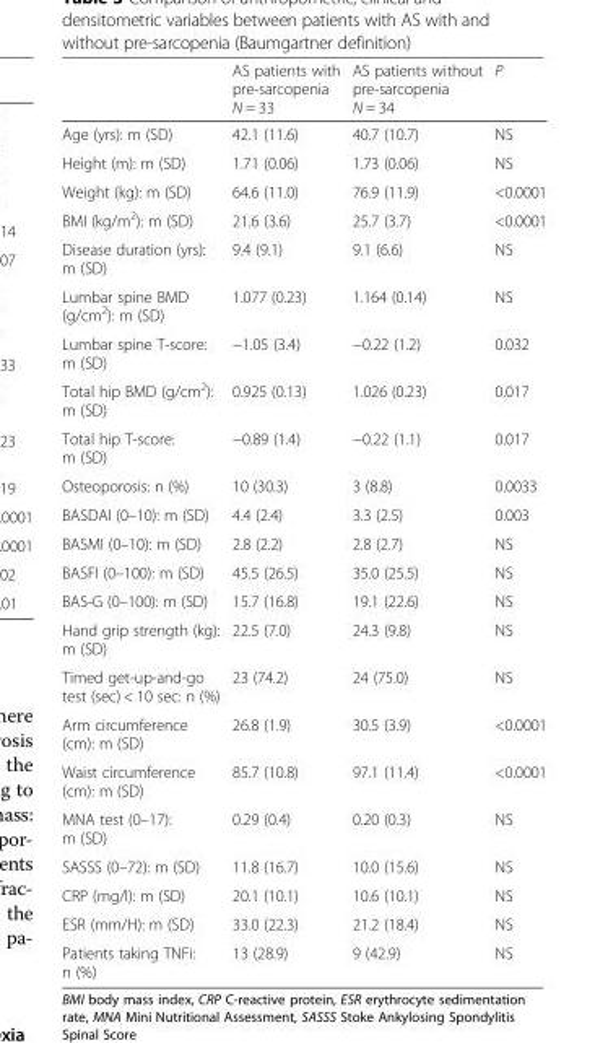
<table><thead><tr><td></td><td>AS patients with pre-sarcopenia N = 33</td><td>AS patients without pre-sarcopenia N = 34</td><td>P</td></tr></thead><tbody><tr><td>Age (yrs): m (SD)</td><td>42.1 (11.6)</td><td>40.7 (10.7)</td><td>NS</td></tr><tr><td>Height (m): m (SD)</td><td>1.71 (0.06)</td><td>1.73 (0.06)</td><td>NS</td></tr><tr><td>Weight (kg): m (SD)</td><td>64.6 (11.0)</td><td>76.9 (11.9)</td><td>&lt;0.0001</td></tr><tr><td>BMI (kg/m<sup>2</sup>): m (SD)</td><td>21.6 (3.6)</td><td>25.7 (3.7)</td><td>&lt;0.0001</td></tr><tr><td>Disease duration (yrs): m (SD)</td><td>9.4 (9.1)</td><td>9.1 (6.6)</td><td>NS</td></tr><tr><td>Lumbar spine BMD (g/cm<sup>2</sup>): m (SD)</td><td>1.077 (0.23)</td><td>1.164 (0.14)</td><td>NS</td></tr><tr><td>Lumbar spine T-score: m (SD)</td><td>−1.05 (3.4)</td><td>−0.22 (1.2)</td><td>0.032</td></tr><tr><td>Total hip BMD (g/cm<sup>2</sup>): m (SD)</td><td>0.925 (0.13)</td><td>1.026 (0.23)</td><td>0.017</td></tr><tr><td>Total hip T-score: m (SD)</td><td>−0.89 (1.4)</td><td>−0.22 (1.1)</td><td>0.017</td></tr><tr><td>Osteoporosis: n (%)</td><td>10 (30.3)</td><td>3 (8.8)</td><td>0.0033</td></tr><tr><td>BASDAI (0–10): m (SD)</td><td>4.4 (2.4)</td><td>3.3 (2.5)</td><td>0.003</td></tr><tr><td>BASMI (0–10): m (SD)</td><td>2.8 (2.2)</td><td>2.8 (2.7)</td><td>NS</td></tr><tr><td>BASFI (0–100): m (SD)</td><td>45.5 (26.5)</td><td>35.0 (25.5)</td><td>NS</td></tr><tr><td>BAS-G (0–100): m (SD)</td><td>15.7 (16.8)</td><td>19.1 (22.6)</td><td>NS</td></tr><tr><td>Hand grip strength (kg): m (SD)</td><td>22.5 (7.0)</td><td>24.3 (9.8)</td><td>NS</td></tr><tr><td>Timed get-up-and-go test (sec) &lt; 10 sec: n (%)</td><td>23 (74.2)</td><td>24 (75.0)</td><td>NS</td></tr><tr><td>Arm circumference (cm): m (SD)</td><td>26.8 (1.9)</td><td>30.5 (3.9)</td><td>&lt;0.0001</td></tr><tr><td>Waist circumference (cm): m (SD)</td><td>85.7 (10.8)</td><td>97.1 (11.4)</td><td>&lt;0.0001</td></tr><tr><td>MNA test (0–17): m (SD)</td><td>0.29 (0.4)</td><td>0.20 (0.3)</td><td>NS</td></tr><tr><td>SASSS (0–72): m (SD)</td><td>11.8 (16.7)</td><td>10.0 (15.6)</td><td>NS</td></tr><tr><td>CRP (mg/l): m (SD)</td><td>20.1 (10.1)</td><td>10.6 (10.1)</td><td>NS</td></tr><tr><td>ESR (mm/H): m (SD)</td><td>33.0 (22.3)</td><td>21.2 (18.4)</td><td>NS</td></tr><tr><td>Patients taking TNFi: n (%)</td><td>13 (28.9)</td><td>9 (42.9)</td><td>NS</td></tr></tbody></table>